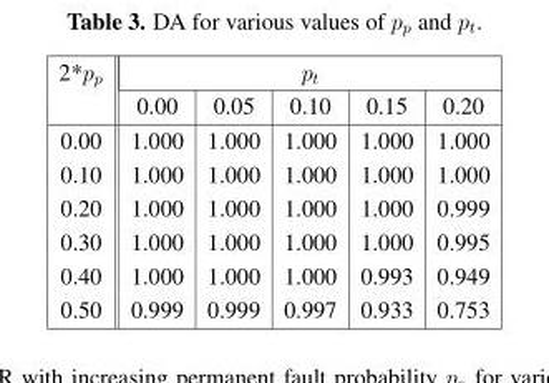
<table><thead><tr><td rowspan="2">2*p<sub>p</sub></td><td colspan="5">p<sub>t</sub></td></tr><tr><td>0.00</td><td>0.05</td><td>0.10</td><td>0.15</td><td>0.20</td></tr></thead><tbody><tr><td>0.00</td><td>1.000</td><td>1.000</td><td>1.000</td><td>1.000</td><td>1.000</td></tr><tr><td>0.10</td><td>1.000</td><td>1.000</td><td>1.000</td><td>1.000</td><td>1.000</td></tr><tr><td>0.20</td><td>1.000</td><td>1.000</td><td>1.000</td><td>1.000</td><td>0.999</td></tr><tr><td>0.30</td><td>1.000</td><td>1.000</td><td>1.000</td><td>1.000</td><td>0.995</td></tr><tr><td>0.40</td><td>1.000</td><td>1.000</td><td>1.000</td><td>0.993</td><td>0.949</td></tr><tr><td>0.50</td><td>0.999</td><td>0.999</td><td>0.997</td><td>0.933</td><td>0.753</td></tr></tbody></table>